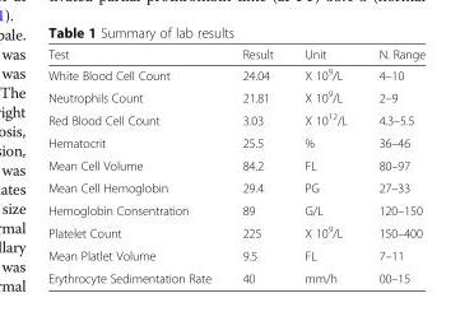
<table><thead><tr><td>Test</td><td>Result</td><td>Unit</td><td>N. Range</td></tr></thead><tbody><tr><td>White Blood Cell Count</td><td>24.04</td><td>X 10<sup>9</sup>/L</td><td>4–10</td></tr><tr><td>Neutrophils Count</td><td>21.81</td><td>X 10<sup>9</sup>/L</td><td>2–9</td></tr><tr><td>Red Blood Cell Count</td><td>3.03</td><td>X 10<sup>12</sup>/L</td><td>4.3–5.5</td></tr><tr><td>Hematocrit</td><td>25.5</td><td>%</td><td>36–46</td></tr><tr><td>Mean Cell Volume</td><td>84.2</td><td>FL</td><td>80–97</td></tr><tr><td>Mean Cell Hemoglobin</td><td>29.4</td><td>PG</td><td>27–33</td></tr><tr><td>Hemoglobin Consentration</td><td>89</td><td>G/L</td><td>120–150</td></tr><tr><td>Platelet Count</td><td>225</td><td>X 10<sup>9</sup>/L</td><td>150–400</td></tr><tr><td>Mean Platlet Volume</td><td>9.5</td><td>FL</td><td>7–11</td></tr><tr><td>Erythrocyte Sedimentation Rate</td><td>40</td><td>mm/h</td><td>00–15</td></tr></tbody></table>